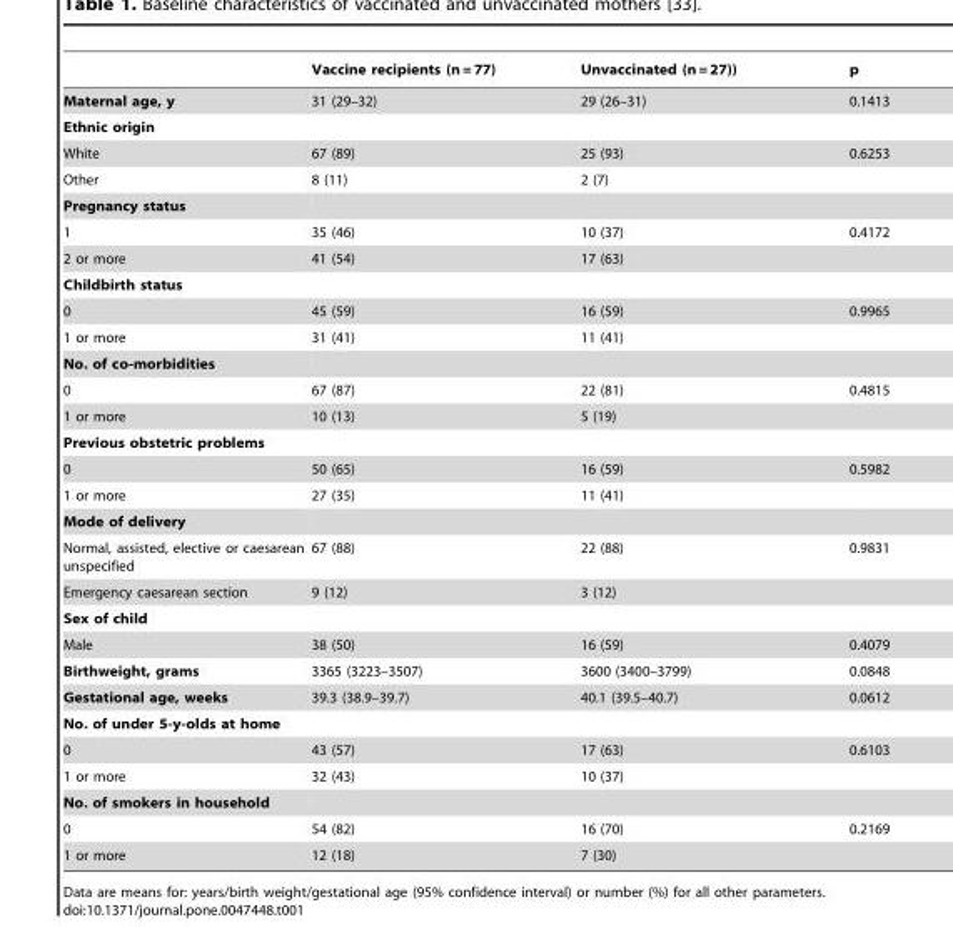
<table><thead><tr><td></td><td>Vaccine recipients (n = 77)</td><td>Unvaccinated (n = 27))</td><td>p</td></tr></thead><tbody><tr><td>Maternal age, y</td><td>31 (29–32)</td><td>29 (26–31)</td><td>0.1413</td></tr><tr><td colspan="4">Ethnic origin</td></tr><tr><td>White</td><td>67 (89)</td><td>25 (93)</td><td>0.6253</td></tr><tr><td>Other</td><td>8 (11)</td><td>2 (7)</td><td></td></tr><tr><td colspan="4">Pregnancy status</td></tr><tr><td>1</td><td>35 (46)</td><td>10 (37)</td><td>0.4172</td></tr><tr><td>2 or more</td><td>41 (54)</td><td>17 (63)</td><td></td></tr><tr><td colspan="4">Childbirth status</td></tr><tr><td>0</td><td>45 (59)</td><td>16 (59)</td><td>0.9965</td></tr><tr><td>1 or more</td><td>31 (41)</td><td>11 (41)</td><td></td></tr><tr><td colspan="4">No. of co-morbidities</td></tr><tr><td>0</td><td>67 (87)</td><td>22 (81)</td><td>0.4815</td></tr><tr><td>1 or more</td><td>10 (13)</td><td>5 (19)</td><td></td></tr><tr><td colspan="4">Previous obstetric problems</td></tr><tr><td>0</td><td>50 (65)</td><td>16 (59)</td><td>0.5982</td></tr><tr><td>1 or more</td><td>27 (35)</td><td>11 (41)</td><td></td></tr><tr><td colspan="4">Mode of delivery</td></tr><tr><td>Normal, assisted, elective or caesarean unspecified</td><td>67 (88)</td><td>22 (88)</td><td>0.9831</td></tr><tr><td>Emergency caesarean section</td><td>9 (12)</td><td>3 (12)</td><td></td></tr><tr><td colspan="4">Sex of child</td></tr><tr><td>Male</td><td>38 (50)</td><td>16 (59)</td><td>0.4079</td></tr><tr><td>Birthweight, grams</td><td>3365 (3223–3507)</td><td>3600 (3400–3799)</td><td>0.0848</td></tr><tr><td>Gestational age, weeks</td><td>39.3 (38.9–39.7)</td><td>40.1 (39.5–40.7)</td><td>0.0612</td></tr><tr><td colspan="4">No. of under 5-y-olds at home</td></tr><tr><td>0</td><td>43 (57)</td><td>17 (63)</td><td>0.6103</td></tr><tr><td>1 or more</td><td>32 (43)</td><td>10 (37)</td><td></td></tr><tr><td colspan="4">No. of smokers in household</td></tr><tr><td>0</td><td>54 (82)</td><td>16 (70)</td><td>0.2169</td></tr><tr><td>1 or more</td><td>12 (18)</td><td>7 (30)</td><td></td></tr></tbody></table>